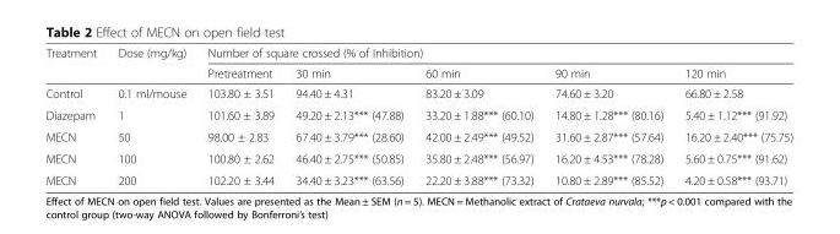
<table><thead><tr><td rowspan="2">Treatment</td><td rowspan="2">Dose (mg/kg)</td><td colspan="5">Number of square crossed (% of Inhibition)</td></tr><tr><td>Pretreatment</td><td>30 min</td><td>60 min</td><td>90 min</td><td>120 min</td></tr></thead><tbody><tr><td>Control</td><td>0.1 ml/mouse</td><td>103.80 ± 3.51</td><td>94.40 ± 4.31</td><td>83.20 ± 3.09</td><td>74.60 ± 3.20</td><td>66.80 ± 2.58</td></tr><tr><td>Diazepam</td><td>1</td><td>101.60 ± 3.89</td><td>49.20 ± 2.13*** (47.88)</td><td>33.20 ± 1.88*** (60.10)</td><td>14.80 ± 1.28*** (80.16)</td><td>5.40 ± 1.12*** (91.92)</td></tr><tr><td>MECN</td><td>50</td><td>98.00 ± 2.83</td><td>67.40 ± 3.79*** (28.60)</td><td>42.00 ± 2.49*** (49.52)</td><td>31.60 ± 2.87*** (57.64)</td><td>16.20 ± 2.40*** (75.75)</td></tr><tr><td>MECN</td><td>100</td><td>100.80 ± 2.62</td><td>46.40 ± 2.75*** (50.85)</td><td>35.80 ± 2.48*** (56.97)</td><td>16.20 ± 4.53*** (78.28)</td><td>5.60 ± 0.75*** (91.62)</td></tr><tr><td>MECN</td><td>200</td><td>102.20 ± 3.44</td><td>34.40 ± 3.23*** (63.56)</td><td>22.20 ± 3.88*** (73.32)</td><td>10.80 ± 2.89*** (85.52)</td><td>4.20 ± 0.58*** (93.71)</td></tr></tbody></table>